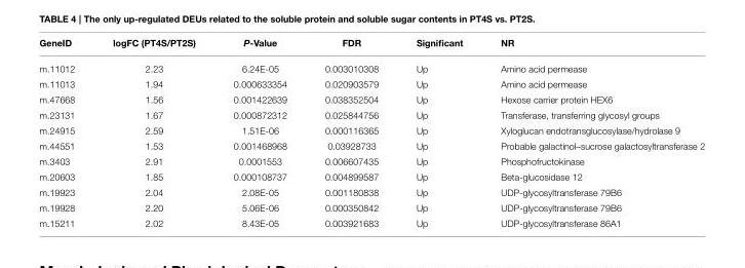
<table><thead><tr><td>GeneID</td><td>logFC (PT4S/PT2S)</td><td>P-Value</td><td>FDR</td><td>Significant</td><td>NR</td></tr></thead><tbody><tr><td>m.11012</td><td>2.23</td><td>6.24E-05</td><td>0.003010308</td><td>Up</td><td>Amino acid permease</td></tr><tr><td>m.11013</td><td>1.94</td><td>0.000633354</td><td>0.020903579</td><td>Up</td><td>Amino acid permease</td></tr><tr><td>m.47668</td><td>1.56</td><td>0.001422639</td><td>0.038352504</td><td>Up</td><td>Hexose carrier protein HEX6</td></tr><tr><td>m.23131</td><td>1.67</td><td>0.000872312</td><td>0.025844756</td><td>Up</td><td>Transferase, transferring glycosyl groups</td></tr><tr><td>m.24915</td><td>2.59</td><td>1.51E-06</td><td>0.000116365</td><td>Up</td><td>Xyloglucan endotransglucosylase/hydrolase 9</td></tr><tr><td>m.44551</td><td>1.53</td><td>0.001468968</td><td>0.03928733</td><td>Up</td><td>Probable galactinol–sucrose galactosyltransferase 2</td></tr><tr><td>m.3403</td><td>2.91</td><td>0.0001553</td><td>0.006607435</td><td>Up</td><td>Phosphofructokinase</td></tr><tr><td>m.20603</td><td>1.85</td><td>0.000108737</td><td>0.004899587</td><td>Up</td><td>Beta-glucosidase 12</td></tr><tr><td>m.19923</td><td>2.04</td><td>2.08E-05</td><td>0.001180838</td><td>Up</td><td>UDP-glycosyltransferase 79B6</td></tr><tr><td>m.19928</td><td>2.20</td><td>5.06E-06</td><td>0.000350842</td><td>Up</td><td>UDP-glycosyltransferase 79B6</td></tr><tr><td>m.15211</td><td>2.02</td><td>8.43E-05</td><td>0.003921683</td><td>Up</td><td>UDP-glycosyltransferase 86A1</td></tr></tbody></table>